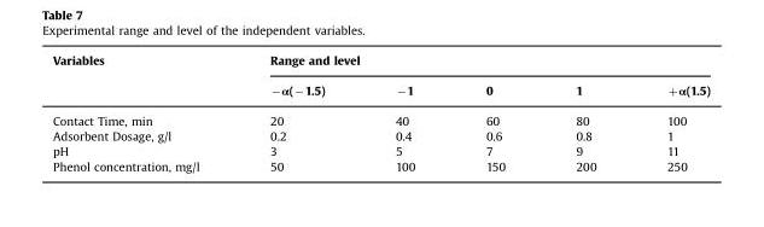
<table><thead><tr><td rowspan="2">Variables</td><td colspan="5">Range and level</td></tr><tr><td>−α(−1.5)</td><td>−1</td><td>0</td><td>1</td><td>+α(1.5)</td></tr></thead><tbody><tr><td>Contact Time, min</td><td>20</td><td>40</td><td>60</td><td>80</td><td>100</td></tr><tr><td>Adsorbent Dosage, g/l</td><td>0.2</td><td>0.4</td><td>0.6</td><td>0.8</td><td>1</td></tr><tr><td>pH</td><td>3</td><td>5</td><td>7</td><td>9</td><td>11</td></tr><tr><td>Phenol concentration, mg/l</td><td>50</td><td>100</td><td>150</td><td>200</td><td>250</td></tr></tbody></table>